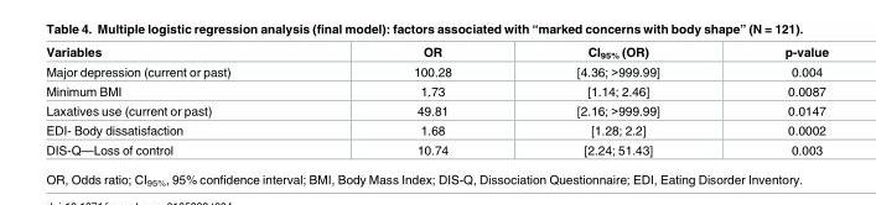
<table><thead><tr><td>Variables</td><td>OR</td><td>CI<sub>95%</sub> (OR)</td><td>p-value</td></tr></thead><tbody><tr><td>Major depression (current or past)</td><td>100.28</td><td>[4.36; &gt;999.99]</td><td>0.004</td></tr><tr><td>Minimum BMI</td><td>1.73</td><td>[1.14; 2.46]</td><td>0.0087</td></tr><tr><td>Laxatives use (current or past)</td><td>49.81</td><td>[2.16; &gt;999.99]</td><td>0.0147</td></tr><tr><td>EDI- Body dissatisfaction</td><td>1.68</td><td>[1.28; 2.2]</td><td>0.0002</td></tr><tr><td>DIS-Q—Loss of control</td><td>10.74</td><td>[2.24; 51.43]</td><td>0.003</td></tr></tbody></table>